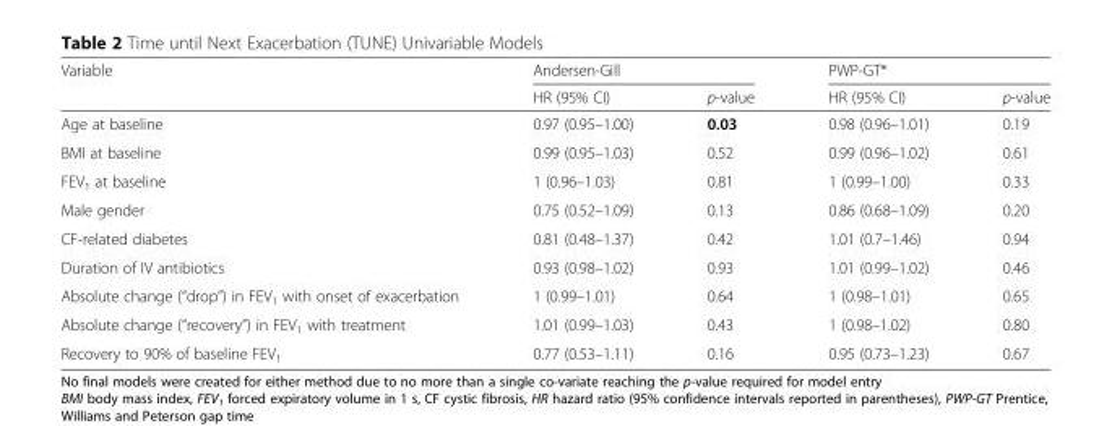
<table><thead><tr><td rowspan="2">Variable</td><td colspan="2">Andersen-Gill</td><td colspan="2">PWP-GT*</td></tr><tr><td>HR (95% CI)</td><td>p-value</td><td>HR (95% CI)</td><td>p-value</td></tr></thead><tbody><tr><td>Age at baseline</td><td>0.97 (0.95–1.00)</td><td>0.03</td><td>0.98 (0.96–1.01)</td><td>0.19</td></tr><tr><td>BMI at baseline</td><td>0.99 (0.95–1.03)</td><td>0.52</td><td>0.99 (0.96–1.02)</td><td>0.61</td></tr><tr><td>FEV<sub>1</sub> at baseline</td><td>1 (0.96–1.03)</td><td>0.81</td><td>1 (0.99–1.00)</td><td>0.33</td></tr><tr><td>Male gender</td><td>0.75 (0.52–1.09)</td><td>0.13</td><td>0.86 (0.68–1.09)</td><td>0.20</td></tr><tr><td>CF-related diabetes</td><td>0.81 (0.48–1.37)</td><td>0.42</td><td>1.01 (0.7–1.46)</td><td>0.94</td></tr><tr><td>Duration of IV antibiotics</td><td>0.93 (0.98–1.02)</td><td>0.93</td><td>1.01 (0.99–1.02)</td><td>0.46</td></tr><tr><td>Absolute change (“drop”) in FEV<sub>1</sub> with onset of exacerbation</td><td>1 (0.99–1.01)</td><td>0.64</td><td>1 (0.98–1.01)</td><td>0.65</td></tr><tr><td>Absolute change (“recovery”) in FEV<sub>1</sub> with treatment</td><td>1.01 (0.99–1.03)</td><td>0.43</td><td>1 (0.98–1.02)</td><td>0.80</td></tr><tr><td>Recovery to 90% of baseline FEV<sub>1</sub></td><td>0.77 (0.53–1.11)</td><td>0.16</td><td>0.95 (0.73–1.23)</td><td>0.67</td></tr></tbody></table>